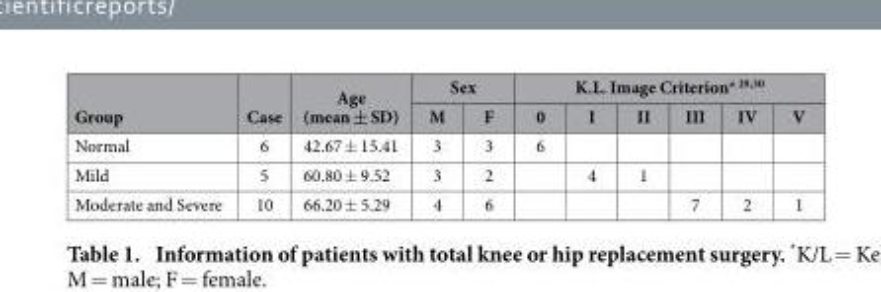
<table><thead><tr><td rowspan="2">Group</td><td rowspan="2">Case</td><td rowspan="2">Age (mean ± SD)</td><td colspan="2">Sex</td><td colspan="6">K.L. Image Criterion* 29,30</td></tr><tr><td>M</td><td>F</td><td>0</td><td>I</td><td>II</td><td>III</td><td>IV</td><td>V</td></tr></thead><tbody><tr><td>Normal</td><td>6</td><td>42.67 ± 15.41</td><td>3</td><td>3</td><td>6</td><td></td><td></td><td></td><td></td><td></td></tr><tr><td>Mild</td><td>5</td><td>60.80 ± 9.52</td><td>3</td><td>2</td><td></td><td>4</td><td>1</td><td></td><td></td><td></td></tr><tr><td>Moderate and Severe</td><td>10</td><td>66.20 ± 5.29</td><td>4</td><td>6</td><td></td><td></td><td></td><td>7</td><td>2</td><td>1</td></tr></tbody></table>